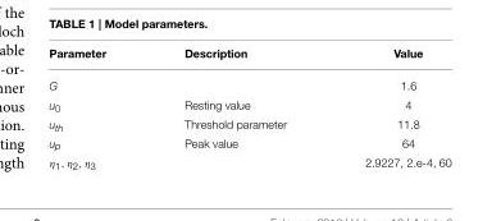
<table><thead><tr><td>Parameter</td><td>Description</td><td>Value</td></tr></thead><tbody><tr><td>G</td><td></td><td>1.6</td></tr><tr><td>u<sub>0</sub></td><td>Resting value</td><td>4</td></tr><tr><td>u<sub>th</sub></td><td>Threshold parameter</td><td>11.8</td></tr><tr><td>u<sub>p</sub></td><td>Peak value</td><td>64</td></tr><tr><td>η<sub>1</sub>, η<sub>2</sub>, η<sub>3</sub></td><td></td><td>2.9227, 2.e-4, 60</td></tr></tbody></table>